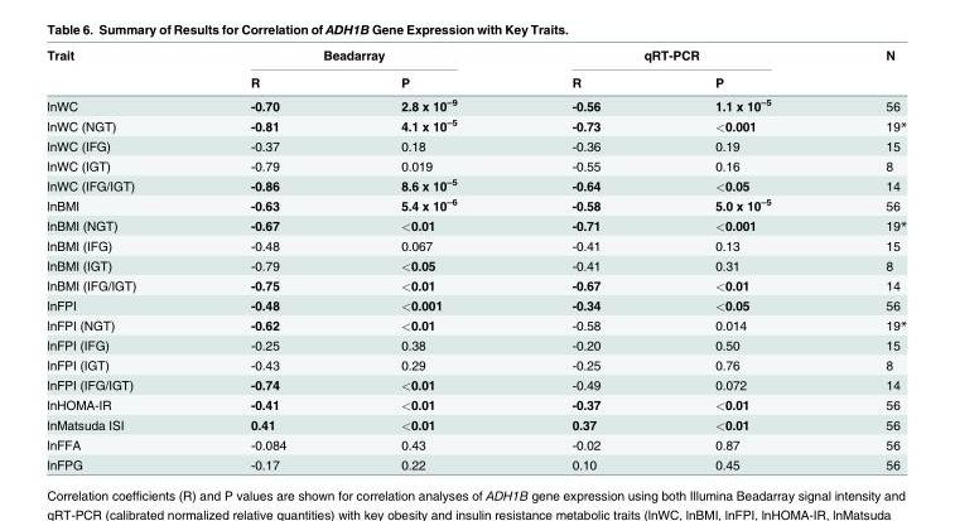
<table><thead><tr><td rowspan="2">Trait</td><td colspan="2">Beadarray</td><td colspan="2">qRT-PCR</td><td rowspan="2">N</td></tr><tr><td>R</td><td>P</td><td>R</td><td>P</td></tr></thead><tbody><tr><td>lnWC</td><td>-0.70</td><td>2.8 x 10<sup>–9</sup></td><td>-0.56</td><td>1.1 x 10<sup>–5</sup></td><td>56</td></tr><tr><td>lnWC (NGT)</td><td>-0.81</td><td>4.1 x 10<sup>–5</sup></td><td>-0.73</td><td>&lt;0.001</td><td>19*</td></tr><tr><td>lnWC (IFG)</td><td>-0.37</td><td>0.18</td><td>-0.36</td><td>0.19</td><td>15</td></tr><tr><td>lnWC (IGT)</td><td>-0.79</td><td>0.019</td><td>-0.55</td><td>0.16</td><td>8</td></tr><tr><td>lnWC (IFG/IGT)</td><td>-0.86</td><td>8.6 x 10<sup>–5</sup></td><td>-0.64</td><td>&lt;0.05</td><td>14</td></tr><tr><td>lnBMI</td><td>-0.63</td><td>5.4 x 10<sup>–6</sup></td><td>-0.58</td><td>5.0 x 10<sup>–5</sup></td><td>56</td></tr><tr><td>lnBMI (NGT)</td><td>-0.67</td><td>&lt;0.01</td><td>-0.71</td><td>&lt;0.001</td><td>19*</td></tr><tr><td>lnBMI (IFG)</td><td>-0.48</td><td>0.067</td><td>-0.41</td><td>0.13</td><td>15</td></tr><tr><td>lnBMI (IGT)</td><td>-0.79</td><td>&lt;0.05</td><td>-0.41</td><td>0.31</td><td>8</td></tr><tr><td>lnBMI (IFG/IGT)</td><td>-0.75</td><td>&lt;0.01</td><td>-0.67</td><td>&lt;0.01</td><td>14</td></tr><tr><td>lnFPI</td><td>-0.48</td><td>&lt;0.001</td><td>-0.34</td><td>&lt;0.05</td><td>56</td></tr><tr><td>lnFPI (NGT)</td><td>-0.62</td><td>&lt;0.01</td><td>-0.58</td><td>0.014</td><td>19*</td></tr><tr><td>lnFPI (IFG)</td><td>-0.25</td><td>0.38</td><td>-0.20</td><td>0.50</td><td>15</td></tr><tr><td>lnFPI (IGT)</td><td>-0.43</td><td>0.29</td><td>-0.25</td><td>0.76</td><td>8</td></tr><tr><td>lnFPI (IFG/IGT)</td><td>-0.74</td><td>&lt;0.01</td><td>-0.49</td><td>0.072</td><td>14</td></tr><tr><td>lnHOMA-IR</td><td>-0.41</td><td>&lt;0.01</td><td>-0.37</td><td>&lt;0.01</td><td>56</td></tr><tr><td>lnMatsuda ISI</td><td>0.41</td><td>&lt;0.01</td><td>0.37</td><td>&lt;0.01</td><td>56</td></tr><tr><td>lnFFA</td><td>-0.084</td><td>0.43</td><td>-0.02</td><td>0.87</td><td>56</td></tr><tr><td>lnFPG</td><td>-0.17</td><td>0.22</td><td>0.10</td><td>0.45</td><td>56</td></tr></tbody></table>